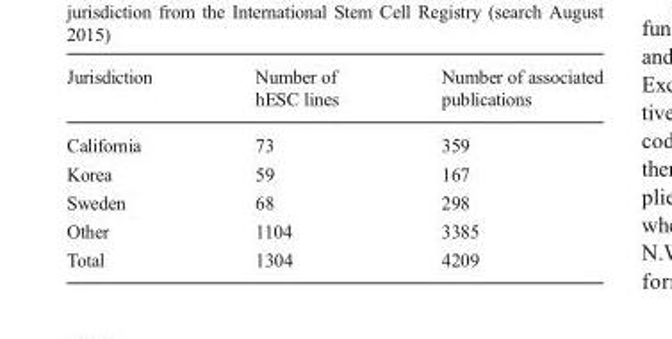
<table><thead><tr><td>Jurisdiction</td><td>Number of hESC lines</td><td>Number of associated publications</td></tr></thead><tbody><tr><td>California</td><td>73</td><td>359</td></tr><tr><td>Korea</td><td>59</td><td>167</td></tr><tr><td>Sweden</td><td>68</td><td>298</td></tr><tr><td>Other</td><td>1104</td><td>3385</td></tr><tr><td>Total</td><td>1304</td><td>4209</td></tr></tbody></table>